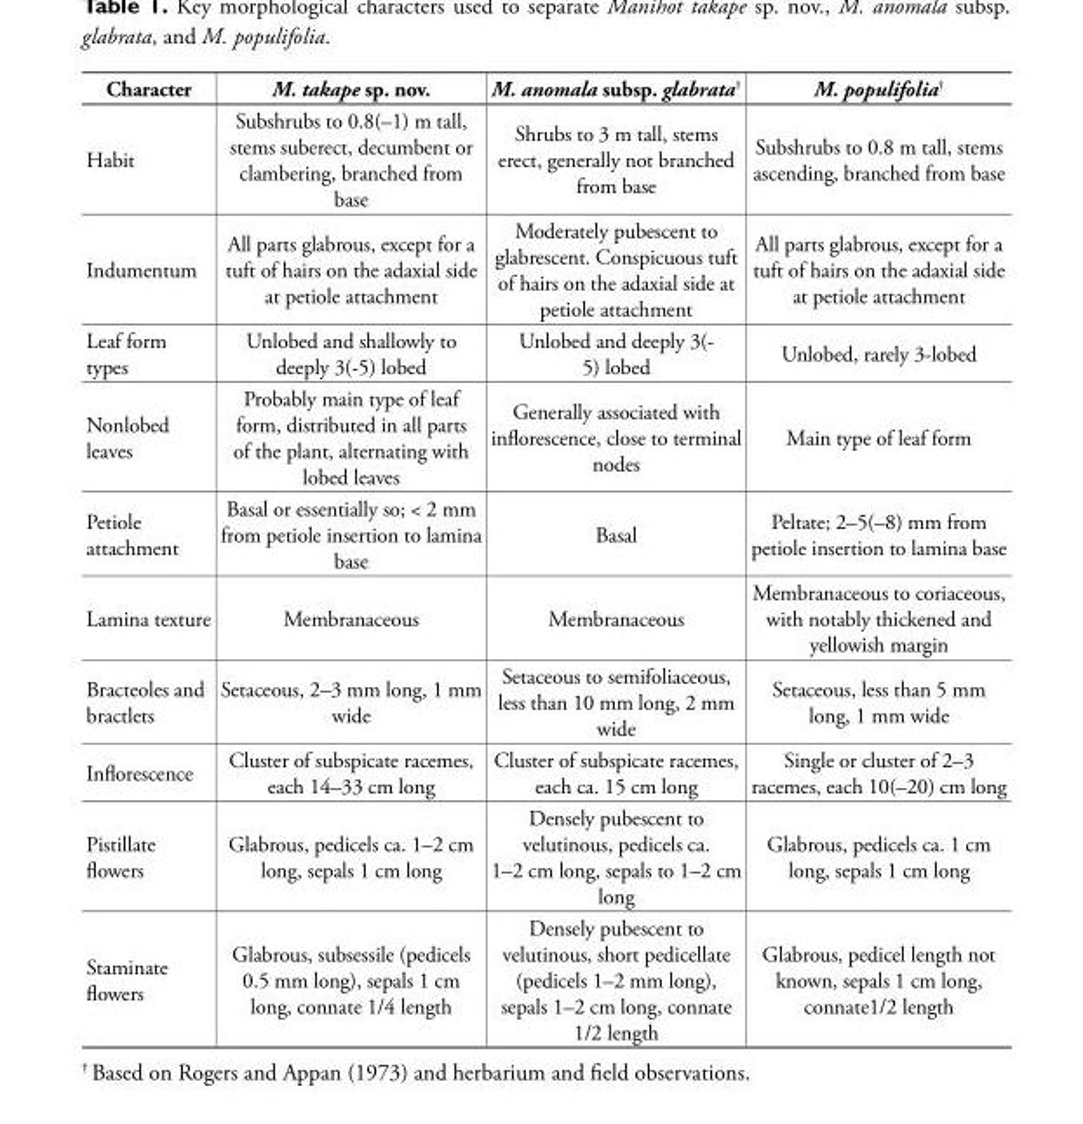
<table><tbody><tr><td>Character</td><td>M. takape sp. nov.</td><td>M. anomala subsp. glabrata<sup>†</sup></td><td>M. populifolia<sup>†</sup></td></tr><tr><td>Habit</td><td>Subshrubs to 0.8(–1) m tall, stems suberect, decumbent or clambering, branched from base</td><td>Shrubs to 3 m tall, stems erect, generally not branched from base</td><td>Subshrubs to 0.8 m tall, stems ascending, branched from base</td></tr><tr><td>Indumentum</td><td>All parts glabrous, except for a tuft of hairs on the adaxial side at petiole attachment</td><td>Moderately pubescent to glabrescent. Conspicuous tuft of hairs on the adaxial side at petiole attachment</td><td>All parts glabrous, except for a tuft of hairs on the adaxial side at petiole attachment</td></tr><tr><td>Leaf form types</td><td>Unlobed and shallowly to deeply 3(-5) lobed</td><td>Unlobed and deeply 3(- 5) lobed</td><td>Unlobed, rarely 3-lobed</td></tr><tr><td>Nonlobed leaves</td><td>Probably main type of leaf form, distributed in all parts of the plant, alternating with lobed leaves</td><td>Generally associated with inflorescence, close to terminal nodes</td><td>Main type of leaf form</td></tr><tr><td>Petiole attachment</td><td>Basal or essentially so; &lt; 2 mm from petiole insertion to lamina base</td><td>Basal</td><td>Peltate; 2–5(–8) mm from petiole insertion to lamina base</td></tr><tr><td>Lamina texture</td><td>Membranaceous</td><td>Membranaceous</td><td>Membranaceous to coriaceous, with notably thickened and yellowish margin</td></tr><tr><td>Bracteoles and bractlets</td><td>Setaceous, 2–3 mm long, 1 mm wide</td><td>Setaceous to semifoliaceous, less than 10 mm long, 2 mm wide</td><td>Setaceous, less than 5 mm long, 1 mm wide</td></tr><tr><td>Inflorescence</td><td>Cluster of subspicate racemes, each 14–33 cm long</td><td>Cluster of subspicate racemes, each ca. 15 cm long</td><td>Single or cluster of 2–3 racemes, each 10(–20) cm long</td></tr><tr><td>Pistillate flowers</td><td>Glabrous, pedicels ca. 1–2 cm long, sepals 1 cm long</td><td>Densely pubescent to velutinous, pedicels ca. 1–2 cm long, sepals to 1–2 cm long</td><td>Glabrous, pedicels ca. 1 cm long, sepals 1 cm long</td></tr><tr><td>Staminate flowers</td><td>Glabrous, subsessile (pedicels 0.5 mm long), sepals 1 cm long, connate 1/4 length</td><td>Densely pubescent to velutinous, short pedicellate (pedicels 1–2 mm long), sepals 1–2 cm long, connate 1/2 length</td><td>Glabrous, pedicel length not known, sepals 1 cm long, connate1/2 length</td></tr></tbody></table>